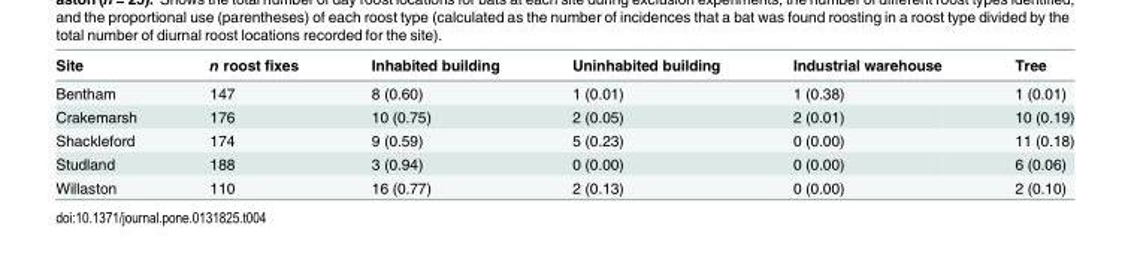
<table><thead><tr><td>Site</td><td>n roost fixes</td><td>Inhabited building</td><td>Uninhabited building</td><td>Industrial warehouse</td><td>Tree</td></tr></thead><tbody><tr><td>Bentham</td><td>147</td><td>8 (0.60)</td><td>1 (0.01)</td><td>1 (0.38)</td><td>1 (0.01)</td></tr><tr><td>Crakemarsh</td><td>176</td><td>10 (0.75)</td><td>2 (0.05)</td><td>2 (0.01)</td><td>10 (0.19)</td></tr><tr><td>Shackleford</td><td>174</td><td>9 (0.59)</td><td>5 (0.23)</td><td>0 (0.00)</td><td>11 (0.18)</td></tr><tr><td>Studland</td><td>188</td><td>3 (0.94)</td><td>0 (0.00)</td><td>0 (0.00)</td><td>6 (0.06)</td></tr><tr><td>Willaston</td><td>110</td><td>16 (0.77)</td><td>2 (0.13)</td><td>0 (0.00)</td><td>2 (0.10)</td></tr></tbody></table>